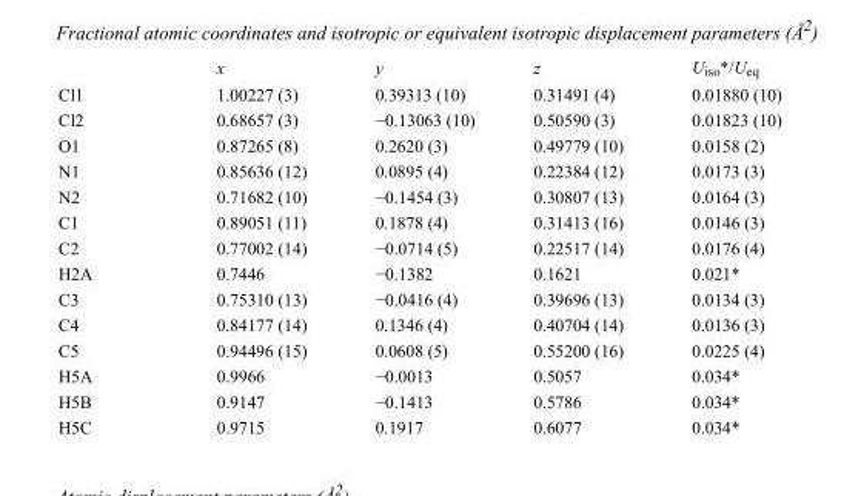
<table><thead><tr><td></td><td>x</td><td>y</td><td>z</td><td>U<sub>iso</sub>*/U<sub>eq</sub></td></tr></thead><tbody><tr><td>Cl1</td><td>1.00227 (3)</td><td>0.39313 (10)</td><td>0.31491 (4)</td><td>0.01880 (10)</td></tr><tr><td>Cl2</td><td>0.68657 (3)</td><td>−0.13063 (10)</td><td>0.50590 (3)</td><td>0.01823 (10)</td></tr><tr><td>O1</td><td>0.87265 (8)</td><td>0.2620 (3)</td><td>0.49779 (10)</td><td>0.0158 (2)</td></tr><tr><td>N1</td><td>0.85636 (12)</td><td>0.0895 (4)</td><td>0.22384 (12)</td><td>0.0173 (3)</td></tr><tr><td>N2</td><td>0.71682 (10)</td><td>−0.1454 (3)</td><td>0.30807 (13)</td><td>0.0164 (3)</td></tr><tr><td>C1</td><td>0.89051 (11)</td><td>0.1878 (4)</td><td>0.31413 (16)</td><td>0.0146 (3)</td></tr><tr><td>C2</td><td>0.77002 (14)</td><td>−0.0714 (5)</td><td>0.22517 (14)</td><td>0.0176 (4)</td></tr><tr><td>H2A</td><td>0.7446</td><td>−0.1382</td><td>0.1621</td><td>0.021*</td></tr><tr><td>C3</td><td>0.75310 (13)</td><td>−0.0416 (4)</td><td>0.39696 (13)</td><td>0.0134 (3)</td></tr><tr><td>C4</td><td>0.84177 (14)</td><td>0.1346 (4)</td><td>0.40704 (14)</td><td>0.0136 (3)</td></tr><tr><td>C5</td><td>0.94496 (15)</td><td>0.0608 (5)</td><td>0.55200 (16)</td><td>0.0225 (4)</td></tr><tr><td>H5A</td><td>0.9966</td><td>−0.0013</td><td>0.5057</td><td>0.034*</td></tr><tr><td>H5B</td><td>0.9147</td><td>−0.1413</td><td>0.5786</td><td>0.034*</td></tr><tr><td>H5C</td><td>0.9715</td><td>0.1917</td><td>0.6077</td><td>0.034*</td></tr></tbody></table>